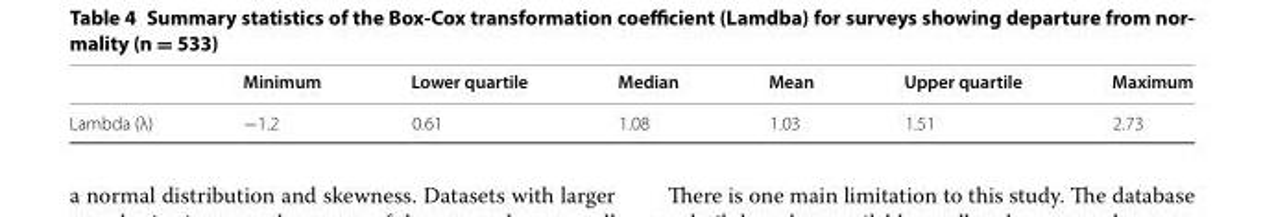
<table><thead><tr><td></td><td>Minimum</td><td>Lower quartile</td><td>Median</td><td>Mean</td><td>Upper quartile</td><td>Maximum</td></tr></thead><tbody><tr><td>Lambda (λ)</td><td>−1.2</td><td>0.61</td><td>1.08</td><td>1.03</td><td>1.51</td><td>2.73</td></tr></tbody></table>